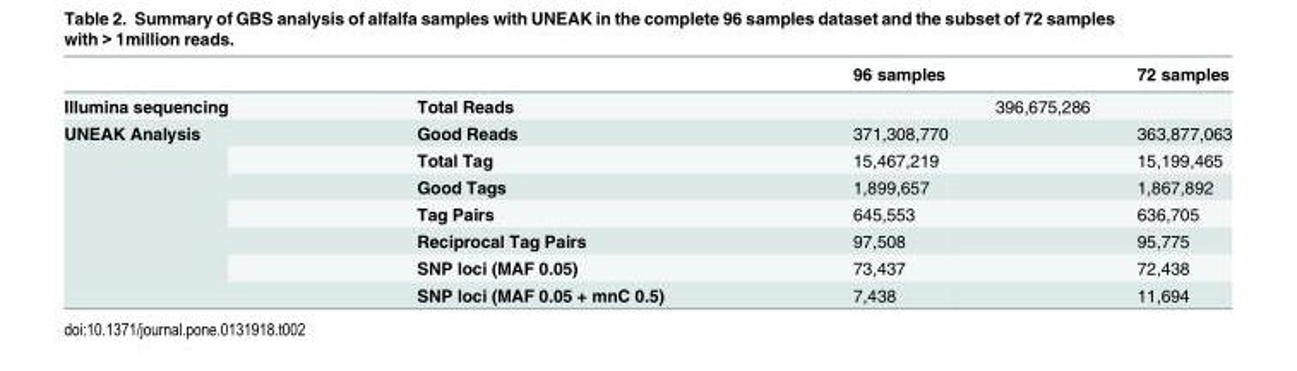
<table><thead><tr><td></td><td></td><td>96 samples</td><td>72 samples</td></tr></thead><tbody><tr><td>Illumina sequencing</td><td>Total Reads</td><td colspan="2">396,675,286</td></tr><tr><td rowspan="7">UNEAK Analysis</td><td>Good Reads</td><td>371,308,770</td><td>363,877,063</td></tr><tr><td>Total Tag</td><td>15,467,219</td><td>15,199,465</td></tr><tr><td>Good Tags</td><td>1,899,657</td><td>1,867,892</td></tr><tr><td>Tag Pairs</td><td>645,553</td><td>636,705</td></tr><tr><td>Reciprocal Tag Pairs</td><td>97,508</td><td>95,775</td></tr><tr><td>SNP loci (MAF 0.05)</td><td>73,437</td><td>72,438</td></tr><tr><td>SNP loci (MAF 0.05 + mnC 0.5)</td><td>7,438</td><td>11,694</td></tr></tbody></table>